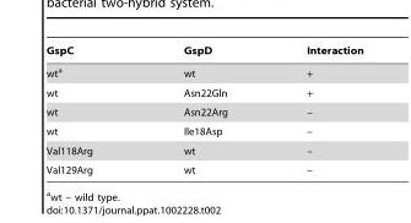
<table><thead><tr><td>GspC</td><td>GspD</td><td>Interaction</td></tr></thead><tbody><tr><td>wt<sup>a</sup></td><td>wt</td><td>+</td></tr><tr><td>wt</td><td>Asn22Gln</td><td>+</td></tr><tr><td>wt</td><td>Asn22Arg</td><td>–</td></tr><tr><td>wt</td><td>Ile18Asp</td><td>–</td></tr><tr><td>Val118Arg</td><td>wt</td><td>–</td></tr><tr><td>Val129Arg</td><td>wt</td><td>–</td></tr></tbody></table>